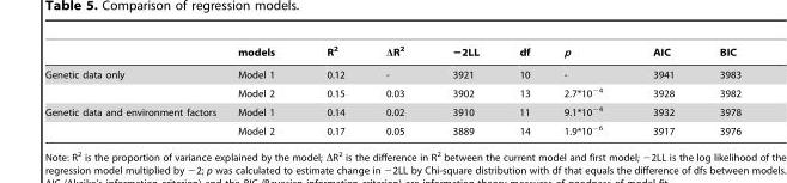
<table><thead><tr><td></td><td>models</td><td>R<sup>2</sup></td><td>ΔR<sup>2</sup></td><td>−2LL</td><td>df</td><td>p</td><td>AIC</td><td>BIC</td></tr></thead><tbody><tr><td rowspan="2">Genetic data only</td><td>Model 1</td><td>0.12</td><td>-</td><td>3921</td><td>10</td><td>-</td><td>3941</td><td>3983</td></tr><tr><td>Model 2</td><td>0.15</td><td>0.03</td><td>3902</td><td>13</td><td>2.7*10<sup>−4</sup></td><td>3928</td><td>3982</td></tr><tr><td rowspan="2">Genetic data and environment factors</td><td>Model 1</td><td>0.14</td><td>0.02</td><td>3910</td><td>11</td><td>9.1*10<sup>−4</sup></td><td>3932</td><td>3978</td></tr><tr><td>Model 2</td><td>0.17</td><td>0.05</td><td>3889</td><td>14</td><td>1.9*10<sup>−6</sup></td><td>3917</td><td>3976</td></tr></tbody></table>